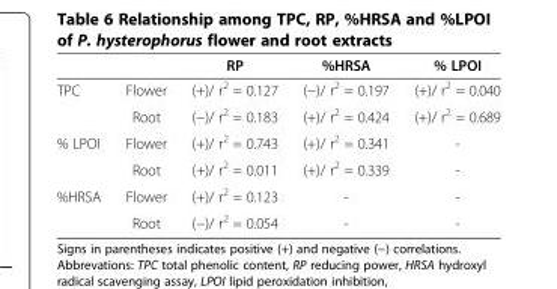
<table><thead><tr><td></td><td></td><td>RP</td><td>%HRSA</td><td>% LPOI</td></tr></thead><tbody><tr><td rowspan="2">TPC</td><td>Flower</td><td>(+)/ r<sup>2</sup> = 0.127</td><td>(−)/ r<sup>2</sup> = 0.197</td><td>(+)/ r<sup>2</sup> = 0.040</td></tr><tr><td>Root</td><td>(−)/ r<sup>2</sup> = 0.183</td><td>(+)/ r<sup>2</sup> = 0.424</td><td>(+)/ r<sup>2</sup> = 0.689</td></tr><tr><td rowspan="2">% LPOI</td><td>Flower</td><td>(+)/ r<sup>2</sup> = 0.743</td><td>(+)/ r<sup>2</sup> = 0.341</td><td>-</td></tr><tr><td>Root</td><td>(+)/ r<sup>2</sup> = 0.011</td><td>(+)/ r<sup>2</sup> = 0.339</td><td>-</td></tr><tr><td rowspan="2">%HRSA</td><td>Flower</td><td>(+)/ r<sup>2</sup> = 0.123</td><td>-</td><td>-</td></tr><tr><td>Root</td><td>(−)/ r<sup>2</sup> = 0.054</td><td>-</td><td>-</td></tr></tbody></table>